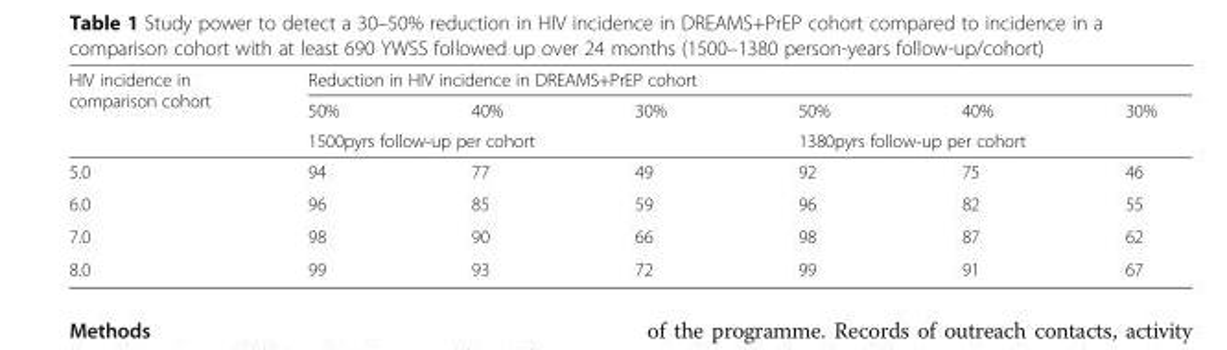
<table><thead><tr><td rowspan="3">HIV incidence in comparison cohort</td><td colspan="6">Reduction in HIV incidence in DREAMS+PrEP cohort</td></tr><tr><td>50%</td><td>40%</td><td>30%</td><td>50%</td><td>40%</td><td>30%</td></tr><tr><td colspan="3">1500pyrs follow-up per cohort</td><td colspan="3">1380pyrs follow-up per cohort</td></tr></thead><tbody><tr><td>5.0</td><td>94</td><td>77</td><td>49</td><td>92</td><td>75</td><td>46</td></tr><tr><td>6.0</td><td>96</td><td>85</td><td>59</td><td>96</td><td>82</td><td>55</td></tr><tr><td>7.0</td><td>98</td><td>90</td><td>66</td><td>98</td><td>87</td><td>62</td></tr><tr><td>8.0</td><td>99</td><td>93</td><td>72</td><td>99</td><td>91</td><td>67</td></tr></tbody></table>